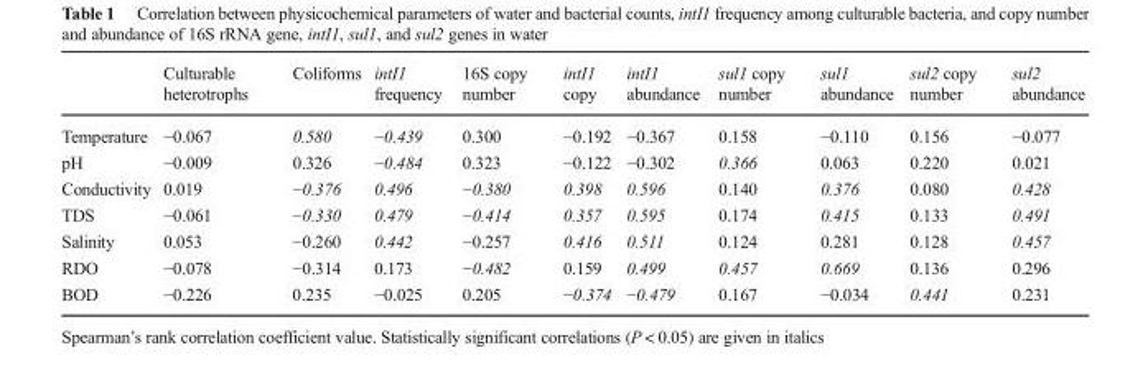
<table><thead><tr><td></td><td>Culturable heterotrophs</td><td>Coliforms</td><td>intI1 frequency</td><td>16S copy number</td><td>intI1 copy</td><td>intI1 abundance</td><td>sul1 copy number</td><td>sul1 abundance</td><td>sul2 copy number</td><td>sul2 abundance</td></tr></thead><tbody><tr><td>Temperature</td><td>−0.067</td><td>0.580</td><td>−0.439</td><td>0.300</td><td>−0.192</td><td>−0.367</td><td>0.158</td><td>−0.110</td><td>0.156</td><td>−0.077</td></tr><tr><td>pH</td><td>−0.009</td><td>0.326</td><td>−0.484</td><td>0.323</td><td>−0.122</td><td>−0.302</td><td>0.366</td><td>0.063</td><td>0.220</td><td>0.021</td></tr><tr><td>Conductivity</td><td>0.019</td><td>−0.376</td><td>0.496</td><td>−0.380</td><td>0.398</td><td>0.596</td><td>0.140</td><td>0.376</td><td>0.080</td><td>0.428</td></tr><tr><td>TDS</td><td>−0.061</td><td>−0.330</td><td>0.479</td><td>−0.414</td><td>0.357</td><td>0.595</td><td>0.174</td><td>0.415</td><td>0.133</td><td>0.491</td></tr><tr><td>Salinity</td><td>0.053</td><td>−0.260</td><td>0.442</td><td>−0.257</td><td>0.416</td><td>0.511</td><td>0.124</td><td>0.281</td><td>0.128</td><td>0.457</td></tr><tr><td>RDO</td><td>−0.078</td><td>−0.314</td><td>0.173</td><td>−0.482</td><td>0.159</td><td>0.499</td><td>0.457</td><td>0.669</td><td>0.136</td><td>0.296</td></tr><tr><td>BOD</td><td>−0.226</td><td>0.235</td><td>−0.025</td><td>0.205</td><td>−0.374</td><td>−0.479</td><td>0.167</td><td>−0.034</td><td>0.441</td><td>0.231</td></tr></tbody></table>